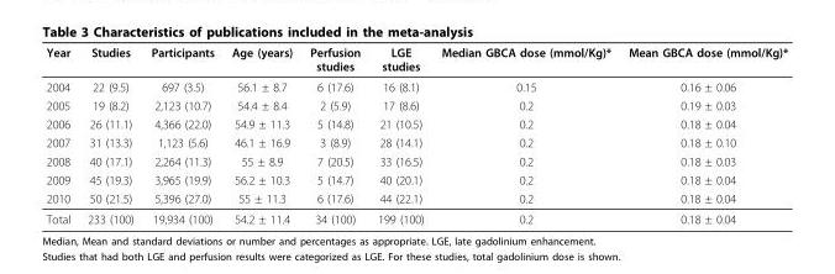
<table><thead><tr><td>Year</td><td>Studies</td><td>Participants</td><td>Age (years)</td><td>Perfusion studies</td><td>LGE studies</td><td>Median GBCA dose (mmol/Kg)*</td><td>Mean GBCA dose (mmol/Kg)*</td></tr></thead><tbody><tr><td>2004</td><td>22 (9.5)</td><td>697 (3.5)</td><td>56.1 ± 8.7</td><td>6 (17.6)</td><td>16 (8.1)</td><td>0.15</td><td>0.16 ± 0.06</td></tr><tr><td>2005</td><td>19 (8.2)</td><td>2,123 (10.7)</td><td>54.4 ± 8.4</td><td>2 (5.9)</td><td>17 (8.6)</td><td>0.2</td><td>0.19 ± 0.03</td></tr><tr><td>2006</td><td>26 (11.1)</td><td>4,366 (22.0)</td><td>54.9 ± 11.3</td><td>5 (14.8)</td><td>21 (10.5)</td><td>0.2</td><td>0.18 ± 0.04</td></tr><tr><td>2007</td><td>31 (13.3)</td><td>1,123 (5.6)</td><td>46.1 ± 16.9</td><td>3 (8.9)</td><td>28 (14.1)</td><td>0.2</td><td>0.18 ± 0.10</td></tr><tr><td>2008</td><td>40 (17.1)</td><td>2,264 (11.3)</td><td>55 ± 8.9</td><td>7 (20.5)</td><td>33 (16.5)</td><td>0.2</td><td>0.18 ± 0.03</td></tr><tr><td>2009</td><td>45 (19.3)</td><td>3,965 (19.9)</td><td>56.2 ± 10.3</td><td>5 (14.7)</td><td>40 (20.1)</td><td>0.2</td><td>0.18 ± 0.04</td></tr><tr><td>2010</td><td>50 (21.5)</td><td>5,396 (27.0)</td><td>55 ± 11.3</td><td>6 (17.6)</td><td>44 (22.1)</td><td>0.2</td><td>0.18 ± 0.04</td></tr><tr><td>Total</td><td>233 (100)</td><td>19,934 (100)</td><td>54.2 ± 11.4</td><td>34 (100)</td><td>199 (100)</td><td>0.2</td><td>0.18 ± 0.04</td></tr></tbody></table>